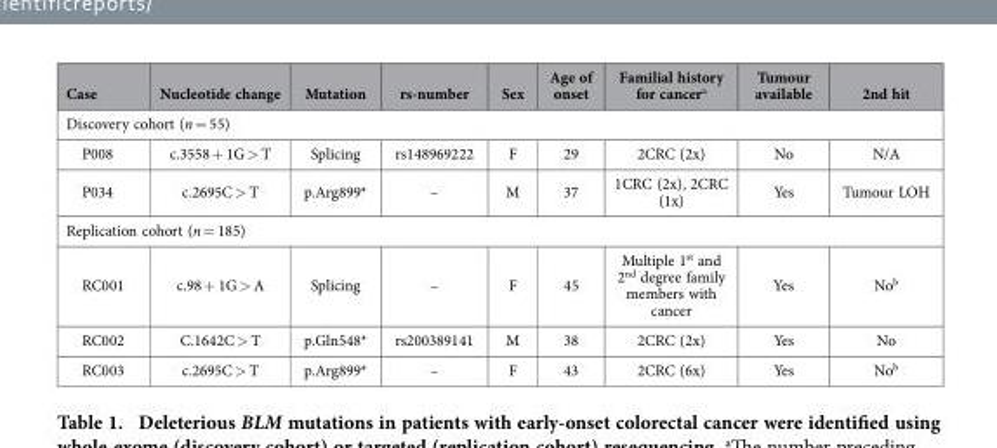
<table><thead><tr><td>Case</td><td>Nucleotide change</td><td>Mutation</td><td>rs-number</td><td>Sex</td><td>Age of onset</td><td>Familial history for cancer<sup>a</sup></td><td>Tumour available</td><td>2nd hit</td></tr></thead><tbody><tr><td colspan="9">Discovery cohort (n = 55)</td></tr><tr><td>P008</td><td>c.3558 + 1G &gt; T</td><td>Splicing</td><td>rs148969222</td><td>F</td><td>29</td><td>2CRC (2x)</td><td>No</td><td>N/A</td></tr><tr><td>P034</td><td>c.2695C &gt; T</td><td>p.Arg899*</td><td>–</td><td>M</td><td>37</td><td>1CRC (2x), 2CRC (1x)</td><td>Yes</td><td>Tumour LOH</td></tr><tr><td colspan="9">Replication cohort (n = 185)</td></tr><tr><td>RC001</td><td>c.98 + 1G &gt; A</td><td>Splicing</td><td>–</td><td>F</td><td>45</td><td>Multiple 1<sup>st</sup> and 2<sup>nd</sup> degree family members with cancer</td><td>Yes</td><td>No<sup>b</sup></td></tr><tr><td>RC002</td><td>C.1642C &gt; T</td><td>p.Gln548*</td><td>rs200389141</td><td>M</td><td>38</td><td>2CRC (2x)</td><td>Yes</td><td>No</td></tr><tr><td>RC003</td><td>c.2695C &gt; T</td><td>p.Arg899*</td><td>–</td><td>F</td><td>43</td><td>2CRC (6x)</td><td>Yes</td><td>No<sup>b</sup></td></tr></tbody></table>